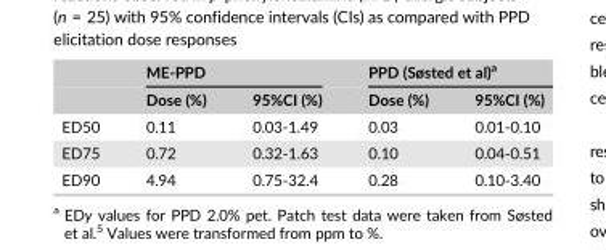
<table><thead><tr><td rowspan="2"></td><td colspan="2">ME-PPD</td><td colspan="2">PPD (Søsted et al)<sup>a</sup></td></tr><tr><td>Dose (%)</td><td>95%CI (%)</td><td>Dose (%)</td><td>95%CI (%)</td></tr></thead><tbody><tr><td>ED50</td><td>0.11</td><td>0.03-1.49</td><td>0.03</td><td>0.01-0.10</td></tr><tr><td>ED75</td><td>0.72</td><td>0.32-1.63</td><td>0.10</td><td>0.04-0.51</td></tr><tr><td>ED90</td><td>4.94</td><td>0.75-32.4</td><td>0.28</td><td>0.10-3.40</td></tr></tbody></table>